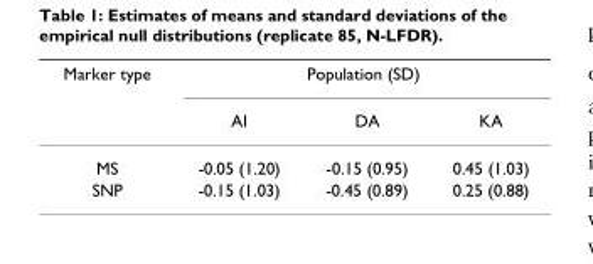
<table><thead><tr><td rowspan="2">Marker type</td><td colspan="3">Population (SD)</td></tr><tr><td>AI</td><td>DA</td><td>KA</td></tr></thead><tbody><tr><td>MS</td><td>-0.05 (1.20)</td><td>-0.15 (0.95)</td><td>0.45 (1.03)</td></tr><tr><td>SNP</td><td>-0.15 (1.03)</td><td>-0.45 (0.89)</td><td>0.25 (0.88)</td></tr></tbody></table>